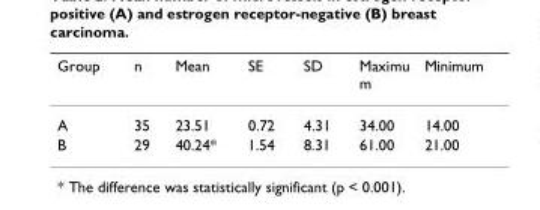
<table><thead><tr><td>Group</td><td>n</td><td>Mean</td><td>SE</td><td>SD</td><td>Maximu m</td><td>Minimum</td></tr></thead><tbody><tr><td>A</td><td>35</td><td>23.51</td><td>0.72</td><td>4.31</td><td>34.00</td><td>14.00</td></tr><tr><td>B</td><td>29</td><td>40.24*</td><td>1.54</td><td>8.31</td><td>61.00</td><td>21.00</td></tr></tbody></table>